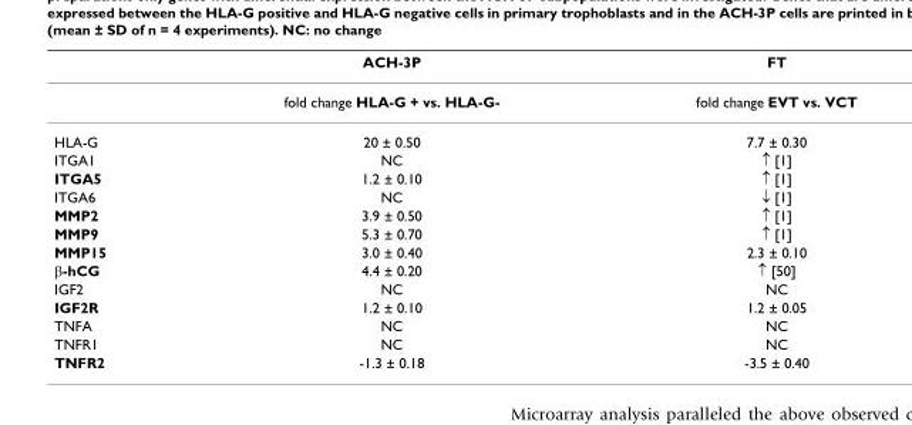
<table><thead><tr><td></td><td>ACH-3P</td><td>FT</td></tr></thead><tbody><tr><td></td><td>fold change HLA-G + vs. HLA-G-</td><td>fold change EVT vs. VCT</td></tr><tr><td>HLA-G</td><td>20 ± 0.50</td><td>7.7 ± 0.30</td></tr><tr><td>ITGA1</td><td>NC</td><td>↑ [1]</td></tr><tr><td>ITGA5</td><td>1.2 ± 0.10</td><td>↑ [1]</td></tr><tr><td>ITGA6</td><td>NC</td><td>↓ [1]</td></tr><tr><td>MMP2</td><td>3.9 ± 0.50</td><td>↑ [1]</td></tr><tr><td>MMP9</td><td>5.3 ± 0.70</td><td>↑ [1]</td></tr><tr><td>MMP15</td><td>3.0 ± 0.40</td><td>2.3 ± 0.10</td></tr><tr><td>β-hCG</td><td>4.4 ± 0.20</td><td>↑ [50]</td></tr><tr><td>IGF2</td><td>NC</td><td>NC</td></tr><tr><td>IGF2R</td><td>1.2 ± 0.10</td><td>1.2 ± 0.05</td></tr><tr><td>TNFA</td><td>NC</td><td>NC</td></tr><tr><td>TNFR1</td><td>NC</td><td>NC</td></tr><tr><td>TNFR2</td><td>-1.3 ± 0.18</td><td>-3.5 ± 0.40</td></tr></tbody></table>